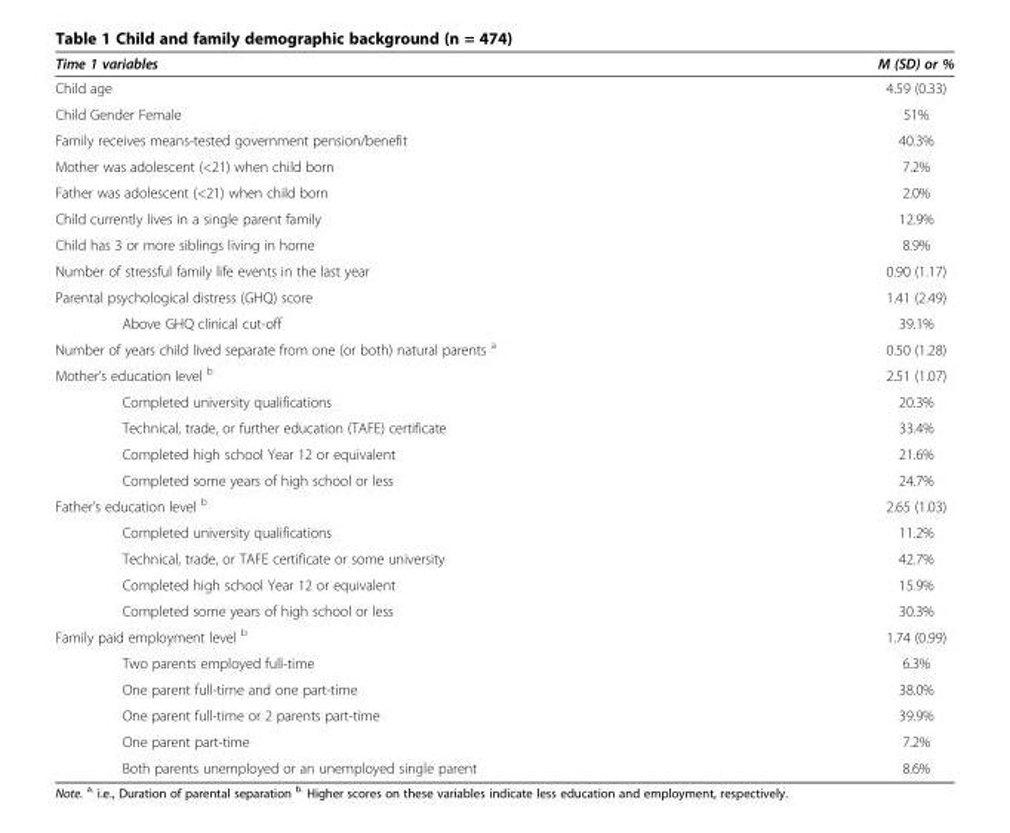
<table><thead><tr><td>Time 1 variables</td><td>M (SD) or %</td></tr></thead><tbody><tr><td>Child age</td><td>4.59 (0.33)</td></tr><tr><td>Child Gender Female</td><td>51%</td></tr><tr><td>Family receives means-tested government pension/benefit</td><td>40.3%</td></tr><tr><td>Mother was adolescent (&lt;21) when child born</td><td>7.2%</td></tr><tr><td>Father was adolescent (&lt;21) when child born</td><td>2.0%</td></tr><tr><td>Child currently lives in a single parent family</td><td>12.9%</td></tr><tr><td>Child has 3 or more siblings living in home</td><td>8.9%</td></tr><tr><td>Number of stressful family life events in the last year</td><td>0.90 (1.17)</td></tr><tr><td>Parental psychological distress (GHQ) score</td><td>1.41 (2.49)</td></tr><tr><td>Above GHQ clinical cut-off</td><td>39.1%</td></tr><tr><td>Number of years child lived separate from one (or both) natural parents <sup>a</sup></td><td>0.50 (1.28)</td></tr><tr><td>Mother’s education level <sup>b</sup></td><td>2.51 (1.07)</td></tr><tr><td>Completed university qualifications</td><td>20.3%</td></tr><tr><td>Technical, trade, or further education (TAFE) certificate</td><td>33.4%</td></tr><tr><td>Completed high school Year 12 or equivalent</td><td>21.6%</td></tr><tr><td>Completed some years of high school or less</td><td>24.7%</td></tr><tr><td>Father’s education level <sup>b</sup></td><td>2.65 (1.03)</td></tr><tr><td>Completed university qualifications</td><td>11.2%</td></tr><tr><td>Technical, trade, or TAFE certificate or some university</td><td>42.7%</td></tr><tr><td>Completed high school Year 12 or equivalent</td><td>15.9%</td></tr><tr><td>Completed some years of high school or less</td><td>30.3%</td></tr><tr><td>Family paid employment level <sup>b</sup></td><td>1.74 (0.99)</td></tr><tr><td>Two parents employed full-time</td><td>6.3%</td></tr><tr><td>One parent full-time and one part-time</td><td>38.0%</td></tr><tr><td>One parent full-time or 2 parents part-time</td><td>39.9%</td></tr><tr><td>One parent part-time</td><td>7.2%</td></tr><tr><td>Both parents unemployed or an unemployed single parent</td><td>8.6%</td></tr></tbody></table>